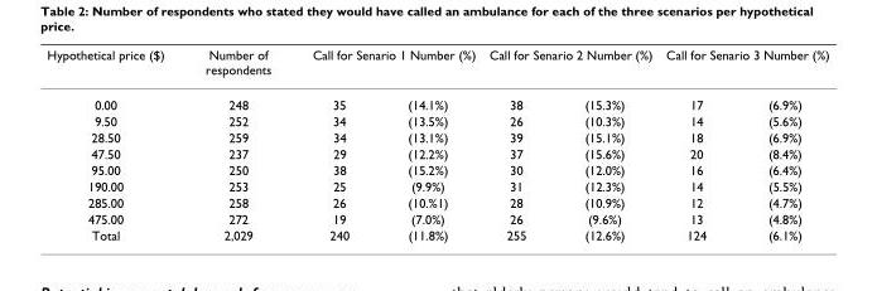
<table><thead><tr><td rowspan="2">Hypothetical price ($) 0.00</td><td rowspan="2">Number of respondents 248</td><td colspan="2">Call for Senario 1 Number (%)</td><td colspan="2">Call for Senario 2 Number (%)</td><td colspan="2">Call for Senario 3 Number (%)</td></tr><tr><td>35</td><td>(14.1%)</td><td>38</td><td>(15.3%)</td><td>17</td><td>(6.9%)</td></tr></thead><tbody><tr><td>9.50</td><td>252</td><td>34</td><td>(13.5%)</td><td>26</td><td>(10.3%)</td><td>14</td><td>(5.6%)</td></tr><tr><td>28.50</td><td>259</td><td>34</td><td>(13.1%)</td><td>39</td><td>(15.1%)</td><td>18</td><td>(6.9%)</td></tr><tr><td>47.50</td><td>237</td><td>29</td><td>(12.2%)</td><td>37</td><td>(15.6%)</td><td>20</td><td>(8.4%)</td></tr><tr><td>95.00</td><td>250</td><td>38</td><td>(15.2%)</td><td>30</td><td>(12.0%)</td><td>16</td><td>(6.4%)</td></tr><tr><td>190.00</td><td>253</td><td>25</td><td>(9.9%)</td><td>31</td><td>(12.3%)</td><td>14</td><td>(5.5%)</td></tr><tr><td>285.00</td><td>258</td><td>26</td><td>(10.%1)</td><td>28</td><td>(10.9%)</td><td>12</td><td>(4.7%)</td></tr><tr><td>475.00</td><td>272</td><td>19</td><td>(7.0%)</td><td>26</td><td>(9.6%)</td><td>13</td><td>(4.8%)</td></tr><tr><td>Total</td><td>2,029</td><td>240</td><td>(11.8%)</td><td>255</td><td>(12.6%)</td><td>124</td><td>(6.1%)</td></tr></tbody></table>